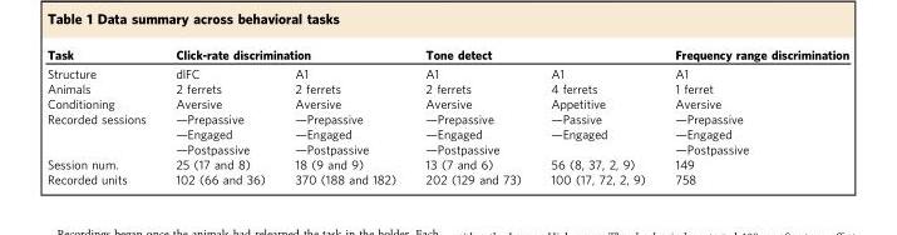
<table><thead><tr><td rowspan="2">Task Structure</td><td colspan="2">Click-rate discrimination</td><td colspan="2">Tone detect</td><td rowspan="2">Frequency range discrimination A1</td></tr><tr><td>dlFC</td><td>A1</td><td>A1</td><td>A1</td></tr></thead><tbody><tr><td>Animals</td><td>2 ferrets</td><td>2 ferrets</td><td>2 ferrets</td><td>4 ferrets</td><td>1 ferret</td></tr><tr><td>Conditioning</td><td>Aversive</td><td>Aversive</td><td>Aversive</td><td>Appetitive</td><td>Aversive</td></tr><tr><td>Recorded sessions</td><td>—Prepassive —Engaged —Postpassive</td><td>—Prepassive —Engaged —Postpassive</td><td>—Prepassive —Engaged —Postpassive</td><td>—Passive —Engaged</td><td>—Prepassive —Engaged —Postpassive</td></tr><tr><td>Session num.</td><td>25 (17 and 8)</td><td>18 (9 and 9)</td><td>13 (7 and 6)</td><td>56 (8, 37, 2, 9)</td><td>149</td></tr><tr><td>Recorded units</td><td>102 (66 and 36)</td><td>370 (188 and 182)</td><td>202 (129 and 73)</td><td>100 (17, 72, 2, 9)</td><td>758</td></tr></tbody></table>